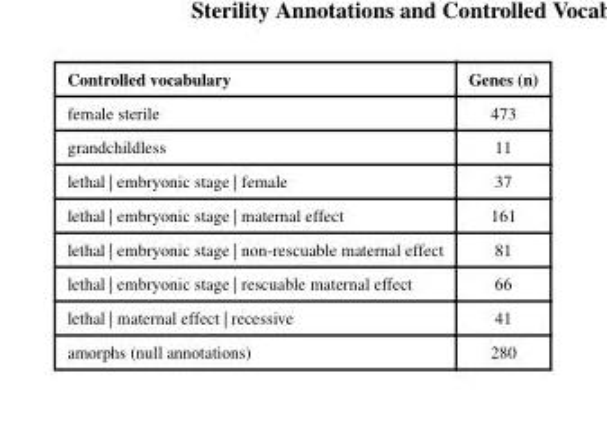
<table><thead><tr><td>Controlled vocabulary</td><td>Genes (n)</td></tr></thead><tbody><tr><td>female sterile</td><td>473</td></tr><tr><td>grandchildless</td><td>11</td></tr><tr><td>lethal | embryonic stage | female</td><td>37</td></tr><tr><td>lethal | embryonic stage | maternal effect</td><td>161</td></tr><tr><td>lethal | embryonic stage | non-rescuable maternal effect</td><td>81</td></tr><tr><td>lethal | embryonic stage | rescuable maternal effect</td><td>66</td></tr><tr><td>lethal | maternal effect | recessive</td><td>41</td></tr><tr><td>amorphs (null annotations)</td><td>280</td></tr></tbody></table>